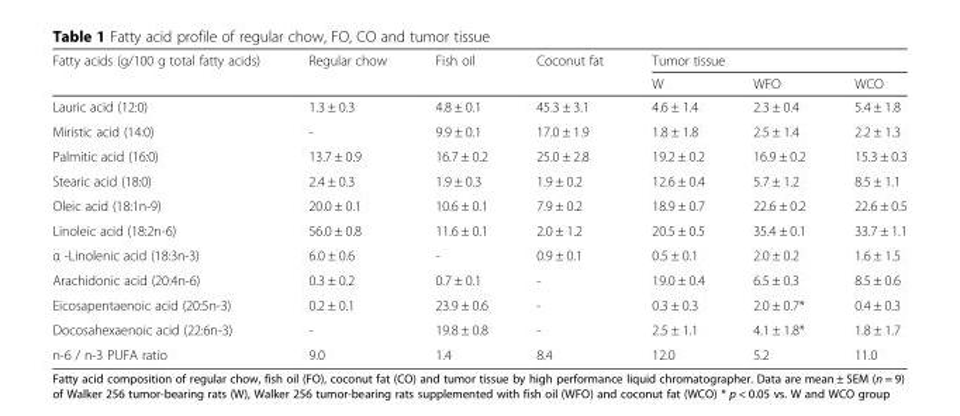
<table><thead><tr><td rowspan="2">Fatty acids (g/100 g total fatty acids)</td><td rowspan="2">Regular chow</td><td rowspan="2">Fish oil</td><td rowspan="2">Coconut fat</td><td colspan="3">Tumor tissue</td></tr><tr><td>W</td><td>WFO</td><td>WCO</td></tr></thead><tbody><tr><td>Lauric acid (12:0)</td><td>1.3 ± 0.3</td><td>4.8 ± 0.1</td><td>45.3 ± 3.1</td><td>4.6 ± 1.4</td><td>2.3 ± 0.4</td><td>5.4 ± 1.8</td></tr><tr><td>Miristic acid (14:0)</td><td>-</td><td>9.9 ± 0.1</td><td>17.0 ± 1.9</td><td>1.8 ± 1.8</td><td>2.5 ± 1.4</td><td>2.2 ± 1.3</td></tr><tr><td>Palmitic acid (16:0)</td><td>13.7 ± 0.9</td><td>16.7 ± 0.2</td><td>25.0 ± 2.8</td><td>19.2 ± 0.2</td><td>16.9 ± 0.2</td><td>15.3 ± 0.3</td></tr><tr><td>Stearic acid (18:0)</td><td>2.4 ± 0.3</td><td>1.9 ± 0.3</td><td>1.9 ± 0.2</td><td>12.6 ± 0.4</td><td>5.7 ± 1.2</td><td>8.5 ± 1.1</td></tr><tr><td>Oleic acid (18:1n-9)</td><td>20.0 ± 0.1</td><td>10.6 ± 0.1</td><td>7.9 ± 0.2</td><td>18.9 ± 0.7</td><td>22.6 ± 0.2</td><td>22.6 ± 0.5</td></tr><tr><td>Linoleic acid (18:2n-6)</td><td>56.0 ± 0.8</td><td>11.6 ± 0.1</td><td>2.0 ± 1.2</td><td>20.5 ± 0.5</td><td>35.4 ± 0.1</td><td>33.7 ± 1.1</td></tr><tr><td>α -Linolenic acid (18:3n-3)</td><td>6.0 ± 0.6</td><td>-</td><td>0.9 ± 0.1</td><td>0.5 ± 0.1</td><td>2.0 ± 0.2</td><td>1.6 ± 1.5</td></tr><tr><td>Arachidonic acid (20:4n-6)</td><td>0.3 ± 0.2</td><td>0.7 ± 0.1</td><td>-</td><td>19.0 ± 0.4</td><td>6.5 ± 0.3</td><td>8.5 ± 0.6</td></tr><tr><td>Eicosapentaenoic acid (20:5n-3)</td><td>0.2 ± 0.1</td><td>23.9 ± 0.6</td><td>-</td><td>0.3 ± 0.3</td><td>2.0 ± 0.7*</td><td>0.4 ± 0.3</td></tr><tr><td>Docosahexaenoic acid (22:6n-3)</td><td>-</td><td>19.8 ± 0.8</td><td>-</td><td>2.5 ± 1.1</td><td>4.1 ± 1.8*</td><td>1.8 ± 1.7</td></tr><tr><td>n-6 / n-3 PUFA ratio</td><td>9.0</td><td>1.4</td><td>8.4</td><td>12.0</td><td>5.2</td><td>11.0</td></tr></tbody></table>